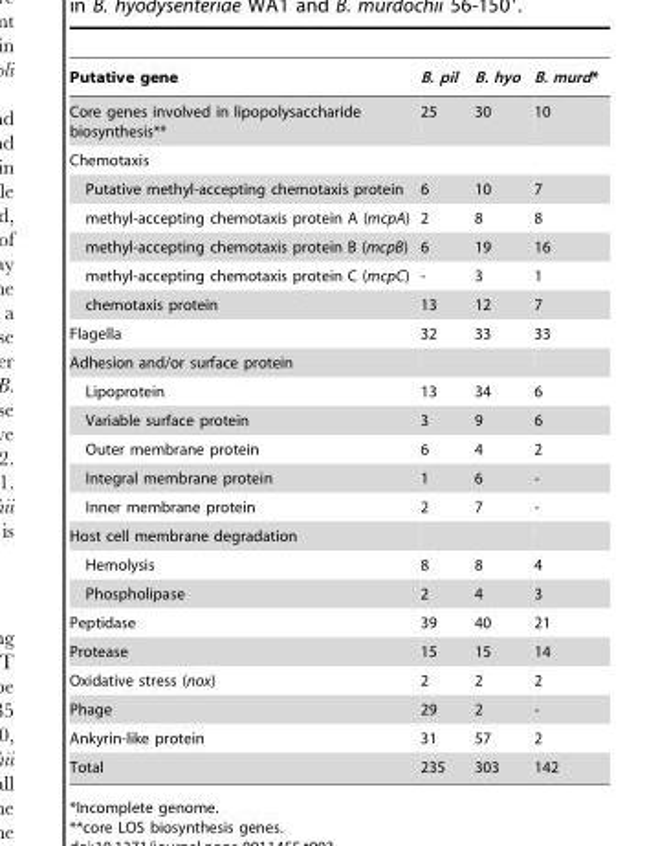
<table><thead><tr><td>Putative gene</td><td>B. pil</td><td>B. hyo</td><td>B. murd*</td></tr></thead><tbody><tr><td>Core genes involved in lipopolysaccharide biosynthesis**</td><td>25</td><td>30</td><td>10</td></tr><tr><td colspan="4">Chemotaxis</td></tr><tr><td>Putative methyl-accepting chemotaxis protein</td><td>6</td><td>10</td><td>7</td></tr><tr><td>methyl-accepting chemotaxis protein A (mcpA)</td><td>2</td><td>8</td><td>8</td></tr><tr><td>methyl-accepting chemotaxis protein B (mcpB)</td><td>6</td><td>19</td><td>16</td></tr><tr><td>methyl-accepting chemotaxis protein C (mcpC)</td><td>-</td><td>3</td><td>1</td></tr><tr><td>chemotaxis protein</td><td>13</td><td>12</td><td>7</td></tr><tr><td>Flagella</td><td>32</td><td>33</td><td>33</td></tr><tr><td colspan="4">Adhesion and/or surface protein</td></tr><tr><td>Lipoprotein</td><td>13</td><td>34</td><td>6</td></tr><tr><td>Variable surface protein</td><td>3</td><td>9</td><td>6</td></tr><tr><td>Outer membrane protein</td><td>6</td><td>4</td><td>2</td></tr><tr><td>Integral membrane protein</td><td>1</td><td>6</td><td>-</td></tr><tr><td>Inner membrane protein</td><td>2</td><td>7</td><td>-</td></tr><tr><td colspan="4">Host cell membrane degradation</td></tr><tr><td>Hemolysis</td><td>8</td><td>8</td><td>4</td></tr><tr><td>Phospholipase</td><td>2</td><td>4</td><td>3</td></tr><tr><td>Peptidase</td><td>39</td><td>40</td><td>21</td></tr><tr><td>Protease</td><td>15</td><td>15</td><td>14</td></tr><tr><td>Oxidative stress (nox)</td><td>2</td><td>2</td><td>2</td></tr><tr><td>Phage</td><td>29</td><td>2</td><td>-</td></tr><tr><td>Ankyrin-like protein</td><td>31</td><td>57</td><td>2</td></tr><tr><td>Total</td><td>235</td><td>303</td><td>142</td></tr></tbody></table>